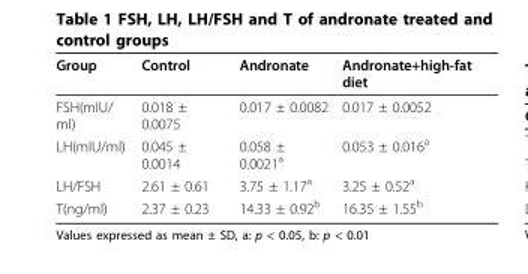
<table><thead><tr><td>Group</td><td>Control</td><td>Andronate</td><td>Andronate+high-fat diet</td></tr></thead><tbody><tr><td>FSH(mIU/ ml)</td><td>0.018 ± 0.0075</td><td>0.017 ± 0.0082</td><td>0.017 ± 0.0052</td></tr><tr><td>LH(mIU/ml)</td><td>0.045 ± 0.0014</td><td>0.058 ± 0.0021<sup>a</sup></td><td>0.053 ± 0.016<sup>a</sup></td></tr><tr><td>LH/FSH</td><td>2.61 ± 0.61</td><td>3.75 ± 1.17<sup>a</sup></td><td>3.25 ± 0.52<sup>a</sup></td></tr><tr><td>T(ng/ml)</td><td>2.37 ± 0.23</td><td>14.33 ± 0.92<sup>b</sup></td><td>16.35 ± 1.55<sup>b</sup></td></tr></tbody></table>